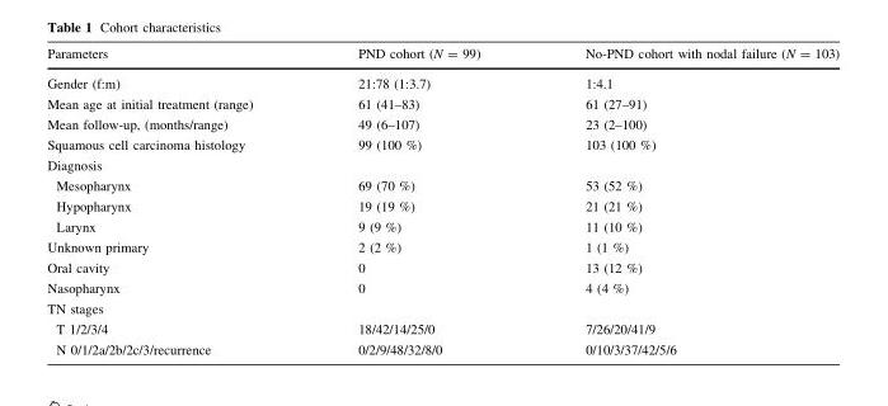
<table><thead><tr><td>Parameters</td><td>PND cohort (N = 99)</td><td>No-PND cohort with nodal failure (N = 103)</td></tr></thead><tbody><tr><td>Gender (f:m)</td><td>21:78 (1:3.7)</td><td>1:4.1</td></tr><tr><td>Mean age at initial treatment (range)</td><td>61 (41–83)</td><td>61 (27–91)</td></tr><tr><td>Mean follow-up, (months/range)</td><td>49 (6–107)</td><td>23 (2–100)</td></tr><tr><td>Squamous cell carcinoma histology</td><td>99 (100 %)</td><td>103 (100 %)</td></tr><tr><td colspan="3">Diagnosis</td></tr><tr><td>Mesopharynx</td><td>69 (70 %)</td><td>53 (52 %)</td></tr><tr><td>Hypopharynx</td><td>19 (19 %)</td><td>21 (21 %)</td></tr><tr><td>Larynx</td><td>9 (9 %)</td><td>11 (10 %)</td></tr><tr><td>Unknown primary</td><td>2 (2 %)</td><td>1 (1 %)</td></tr><tr><td>Oral cavity</td><td>0</td><td>13 (12 %)</td></tr><tr><td>Nasopharynx</td><td>0</td><td>4 (4 %)</td></tr><tr><td colspan="3">TN stages</td></tr><tr><td>T 1/2/3/4</td><td>18/42/14/25/0</td><td>7/26/20/41/9</td></tr><tr><td>N 0/1/2a/2b/2c/3/recurrence</td><td>0/2/9/48/32/8/0</td><td>0/10/3/37/42/5/6</td></tr></tbody></table>